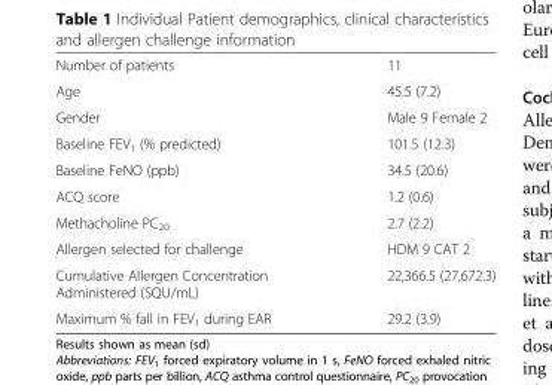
<table><tbody><tr><td>Number of patients</td><td>11</td></tr><tr><td>Age</td><td>45.5 (7.2)</td></tr><tr><td>Gender</td><td>Male 9 Female 2</td></tr><tr><td>Baseline FEV<sub>1</sub> (% predicted)</td><td>101.5 (12.3)</td></tr><tr><td>Baseline FeNO (ppb)</td><td>34.5 (20.6)</td></tr><tr><td>ACQ score</td><td>1.2 (0.6)</td></tr><tr><td>Methacholine PC<sub>20</sub></td><td>2.7 (2.2)</td></tr><tr><td>Allergen selected for challenge</td><td>HDM 9 CAT 2</td></tr><tr><td>Cumulative Allergen Concentration Administered (SQU/mL)</td><td>22,366.5 (27,672.3)</td></tr><tr><td>Maximum % fall in FEV<sub>1</sub> during EAR</td><td>29.2 (3.9)</td></tr></tbody></table>